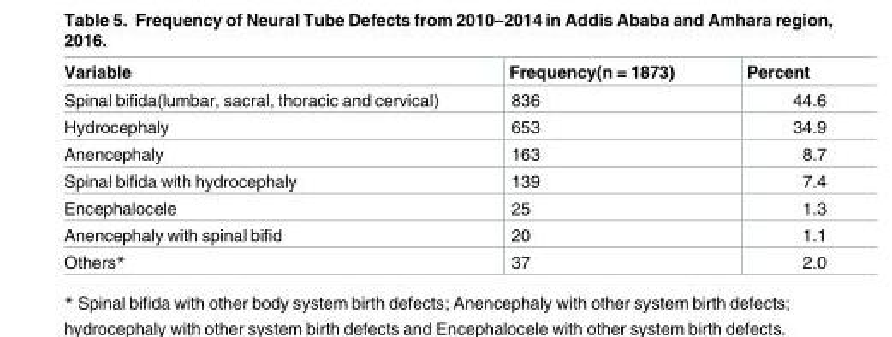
<table><thead><tr><td>Variable</td><td>Frequency(n = 1873)</td><td>Percent</td></tr></thead><tbody><tr><td>Spinal bifida(lumbar, sacral, thoracic and cervical)</td><td>836</td><td>44.6</td></tr><tr><td>Hydrocephaly</td><td>653</td><td>34.9</td></tr><tr><td>Anencephaly</td><td>163</td><td>8.7</td></tr><tr><td>Spinal bifida with hydrocephaly</td><td>139</td><td>7.4</td></tr><tr><td>Encephalocele</td><td>25</td><td>1.3</td></tr><tr><td>Anencephaly with spinal bifid</td><td>20</td><td>1.1</td></tr><tr><td>Others*</td><td>37</td><td>2.0</td></tr></tbody></table>